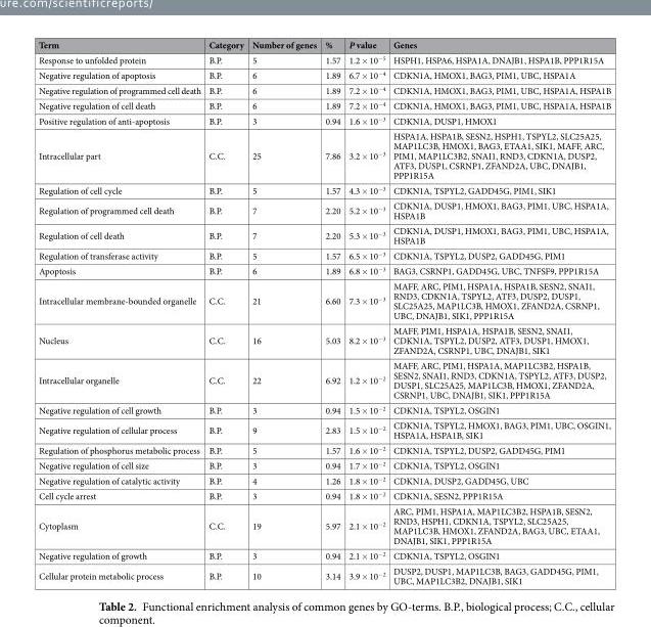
<table><thead><tr><td>Term</td><td>Category</td><td>Number of genes</td><td>%</td><td>P value</td><td>Genes</td></tr></thead><tbody><tr><td>Response to unfolded protein</td><td>B.P.</td><td>5</td><td>1.57</td><td>1.2 × 10<sup>−5</sup></td><td>HSPH1, HSPA6, HSPA1A, DNAJB1, HSPA1B, PPP1R15A</td></tr><tr><td>Negative regulation of apoptosis</td><td>B.P.</td><td>6</td><td>1.89</td><td>6.7 × 10<sup>−4</sup></td><td>CDKN1A, HMOX1, BAG3, PIM1, UBC, HSPA1A</td></tr><tr><td>Negative regulation of programmed cell death</td><td>B.P.</td><td>6</td><td>1.89</td><td>7.2 × 10<sup>−4</sup></td><td>CDKN1A, HMOX1, BAG3, PIM1, UBC, HSPA1A, HSPA1B</td></tr><tr><td>Negative regulation of cell death</td><td>B.P.</td><td>6</td><td>1.89</td><td>7.2 × 10<sup>−4</sup></td><td>CDKN1A, HMOX1, BAG3, PIM1, UBC, HSPA1A, HSPA1B</td></tr><tr><td>Positive regulation of anti-apoptosis</td><td>B.P.</td><td>3</td><td>0.94</td><td>1.6 × 10<sup>−3</sup></td><td>CDKN1A, DUSP1, HMOX1</td></tr><tr><td>Intracellular part</td><td>C.C.</td><td>25</td><td>7.86</td><td>3.2 × 10<sup>−3</sup></td><td>HSPA1A, HSPA1B, SESN2, HSPH1, TSPYL2, SLC25A25, MAP1LC3B, HMOX1, BAG3, ETAA1, SIK1, MAFF, ARC, PIM1, MAP1LC3B2, SNAI1, RND3, CDKN1A, DUSP2, ATF3, DUSP1, CSRNP1, ZFAND2A, UBC, DNAJB1, PPP1R15A</td></tr><tr><td>Regulation of cell cycle</td><td>B.P.</td><td>5</td><td>1.57</td><td>4.3 × 10<sup>−3</sup></td><td>CDKN1A, TSPYL2, GADD45G, PIM1, SIK1</td></tr><tr><td>Regulation of programmed cell death</td><td>B.P.</td><td>7</td><td>2.20</td><td>5.2 × 10<sup>−3</sup></td><td>CDKN1A, DUSP1, HMOX1, BAG3, PIM1, UBC, HSPA1A, HSPA1B</td></tr><tr><td>Regulation of cell death</td><td>B.P.</td><td>7</td><td>2.20</td><td>5.3 × 10<sup>−3</sup></td><td>CDKN1A, DUSP1, HMOX1, BAG3, PIM1, UBC, HSPA1A, HSPA1B</td></tr><tr><td>Regulation of transferase activity</td><td>B.P.</td><td>5</td><td>1.57</td><td>6.5 × 10<sup>−3</sup></td><td>CDKN1A, TSPYL2, DUSP2, GADD45G, PIM1</td></tr><tr><td>Apoptosis</td><td>B.P.</td><td>6</td><td>1.89</td><td>6.8 × 10<sup>−3</sup></td><td>BAG3, CSRNP1, GADD45G, UBC, TNFSF9, PPP1R15A</td></tr><tr><td>Intracellular membrane-bounded organelle</td><td>C.C.</td><td>21</td><td>6.60</td><td>7.3 × 10<sup>−3</sup></td><td>MAFF, ARC, PIM1, HSPA1A, HSPA1B, SESN2, SNAI1, RND3, CDKN1A, TSPYL2, ATF3, DUSP2, DUSP1, SLC25A25, MAP1LC3B, HMOX1, ZFAND2A, CSRNP1, UBC, DNAJB1, SIK1, PPP1R15A</td></tr><tr><td>Nucleus</td><td>C.C.</td><td>16</td><td>5.03</td><td>8.2 × 10<sup>−3</sup></td><td>MAFF, PIM1, HSPA1A, HSPA1B, SESN2, SNAI1, CDKN1A, TSPYL2, DUSP2, ATF3, DUSP1, HMOX1, ZFAND2A, CSRNP1, UBC, DNAJB1, SIK1</td></tr><tr><td>Intracellular organelle</td><td>C.C.</td><td>22</td><td>6.92</td><td>1.2 × 10<sup>−2</sup></td><td>MAFF, ARC, PIM1, HSPA1A, MAP1LC3B2, HSPA1B, SESN2, SNAI1, RND3, CDKN1A, TSPYL2, ATF3, DUSP2, DUSP1, SLC25A25, MAP1LC3B, HMOX1, ZFAND2A, CSRNP1, UBC, DNAJB1, SIK1, PPP1R15A</td></tr><tr><td>Negative regulation of cell growth</td><td>B.P.</td><td>3</td><td>0.94</td><td>1.5 × 10<sup>−2</sup></td><td>CDKN1A, TSPYL2, OSGIN1</td></tr><tr><td>Negative regulation of cellular process</td><td>B.P.</td><td>9</td><td>2.83</td><td>1.5 × 10<sup>−2</sup></td><td>CDKN1A, TSPYL2, HMOX1, BAG3, PIM1, UBC, OSGIN1, HSPA1A, HSPA1B, SIK1</td></tr><tr><td>Regulation of phosphorus metabolic process</td><td>B.P.</td><td>5</td><td>1.57</td><td>1.6 × 10<sup>−2</sup></td><td>CDKN1A, TSPYL2, DUSP2, GADD45G, PIM1</td></tr><tr><td>Negative regulation of cell size</td><td>B.P.</td><td>3</td><td>0.94</td><td>1.7 × 10<sup>−2</sup></td><td>CDKN1A, TSPYL2, OSGIN1</td></tr><tr><td>Negative regulation of catalytic activity</td><td>B.P.</td><td>4</td><td>1.26</td><td>1.8 × 10<sup>−2</sup></td><td>CDKN1A, DUSP2, GADD45G, UBC</td></tr><tr><td>Cell cycle arrest</td><td>B.P.</td><td>3</td><td>0.94</td><td>1.8 × 10<sup>−2</sup></td><td>CDKN1A, SESN2, PPP1R15A</td></tr><tr><td>Cytoplasm</td><td>C.C.</td><td>19</td><td>5.97</td><td>2.1 × 10<sup>−2</sup></td><td>ARC, PIM1, HSPA1A, MAP1LC3B2, HSPA1B, SESN2, RND3, HSPH1, CDKN1A, TSPYL2, SLC25A25, MAP1LC3B, HMOX1, ZFAND2A, BAG3, UBC, ETAA1, DNAJB1, SIK1, PPP1R15A</td></tr><tr><td>Negative regulation of growth</td><td>B.P.</td><td>3</td><td>0.94</td><td>2.1 × 10<sup>−2</sup></td><td>CDKN1A, TSPYL2, OSGIN1</td></tr><tr><td>Cellular protein metabolic process</td><td>B.P.</td><td>10</td><td>3.14</td><td>3.9 × 10<sup>−2</sup></td><td>DUSP2, DUSP1, MAP1LC3B, BAG3, GADD45G, PIM1, UBC, MAP1LC3B2, DNAJB1, SIK1</td></tr></tbody></table>